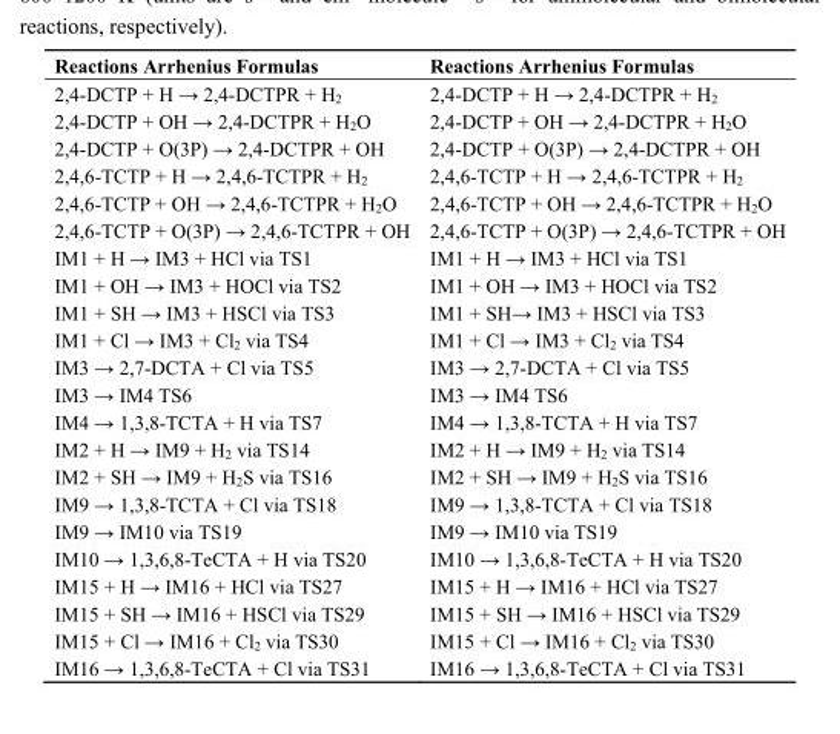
<table><thead><tr><td>Reactions Arrhenius Formulas</td><td>Reactions Arrhenius Formulas</td></tr></thead><tbody><tr><td>2,4-DCTP + H → 2,4-DCTPR + H<sub>2</sub></td><td>2,4-DCTP + H → 2,4-DCTPR + H<sub>2</sub></td></tr><tr><td>2,4-DCTP + OH → 2,4-DCTPR + H<sub>2</sub>O</td><td>2,4-DCTP + OH → 2,4-DCTPR + H<sub>2</sub>O</td></tr><tr><td>2,4-DCTP + O(3P) → 2,4-DCTPR + OH</td><td>2,4-DCTP + O(3P) → 2,4-DCTPR + OH</td></tr><tr><td>2,4,6-TCTP + H → 2,4,6-TCTPR + H<sub>2</sub></td><td>2,4,6-TCTP + H → 2,4,6-TCTPR + H<sub>2</sub></td></tr><tr><td>2,4,6-TCTP + OH → 2,4,6-TCTPR + H<sub>2</sub>O</td><td>2,4,6-TCTP + OH → 2,4,6-TCTPR + H<sub>2</sub>O</td></tr><tr><td>2,4,6-TCTP + O(3P) → 2,4,6-TCTPR + OH</td><td>2,4,6-TCTP + O(3P) → 2,4,6-TCTPR + OH</td></tr><tr><td>IM1 + H → IM3 + HCl via TS1</td><td>IM1 + H → IM3 + HCl via TS1</td></tr><tr><td>IM1 + OH → IM3 + HOCl via TS2</td><td>IM1 + OH → IM3 + HOCl via TS2</td></tr><tr><td>IM1 + SH → IM3 + HSCl via TS3</td><td>IM1 + SH→ IM3 + HSCl via TS3</td></tr><tr><td>IM1 + Cl → IM3 + Cl<sub>2</sub> via TS4</td><td>IM1 + Cl → IM3 + Cl<sub>2</sub> via TS4</td></tr><tr><td>IM3 → 2,7-DCTA + Cl via TS5</td><td>IM3 → 2,7-DCTA + Cl via TS5</td></tr><tr><td>IM3 → IM4 TS6</td><td>IM3 → IM4 TS6</td></tr><tr><td>IM4 → 1,3,8-TCTA + H via TS7</td><td>IM4 → 1,3,8-TCTA + H via TS7</td></tr><tr><td>IM2 + H → IM9 + H<sub>2</sub> via TS14</td><td>IM2 + H → IM9 + H<sub>2</sub> via TS14</td></tr><tr><td>IM2 + SH → IM9 + H<sub>2</sub>S via TS16</td><td>IM2 + SH → IM9 + H<sub>2</sub>S via TS16</td></tr><tr><td>IM9 → 1,3,8-TCTA + Cl via TS18</td><td>IM9 → 1,3,8-TCTA + Cl via TS18</td></tr><tr><td>IM9 → IM10 via TS19</td><td>IM9 → IM10 via TS19</td></tr><tr><td>IM10 → 1,3,6,8-TeCTA + H via TS20</td><td>IM10 → 1,3,6,8-TeCTA + H via TS20</td></tr><tr><td>IM15 + H → IM16 + HCl via TS27</td><td>IM15 + H → IM16 + HCl via TS27</td></tr><tr><td>IM15 + SH → IM16 + HSCl via TS29</td><td>IM15 + SH → IM16 + HSCl via TS29</td></tr><tr><td>IM15 + Cl → IM16 + Cl<sub>2</sub> via TS30</td><td>IM15 + Cl → IM16 + Cl<sub>2</sub> via TS30</td></tr><tr><td>IM16 → 1,3,6,8-TeCTA + Cl via TS31</td><td>IM16 → 1,3,6,8-TeCTA + Cl via TS31</td></tr></tbody></table>